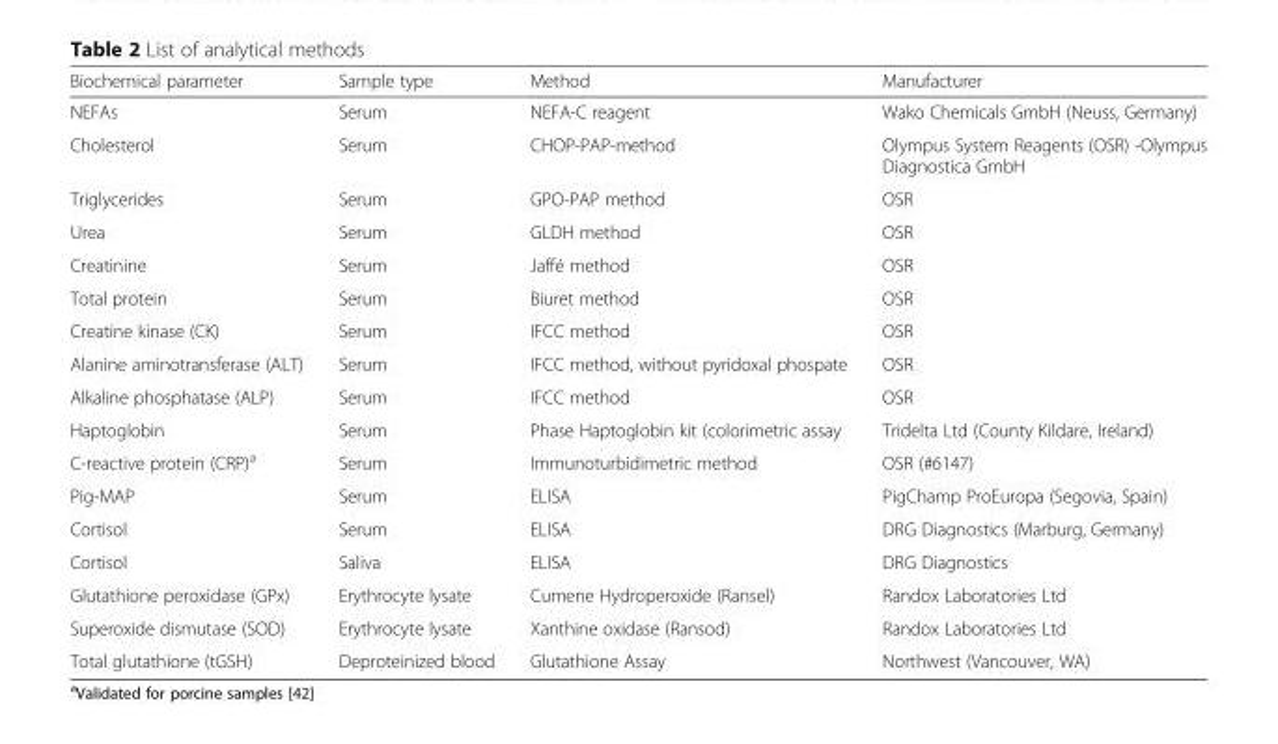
<table><thead><tr><td>Biochemical parameter</td><td>Sample type</td><td>Method</td><td>Manufacturer</td></tr></thead><tbody><tr><td>NEFAs</td><td>Serum</td><td>NEFA-C reagent</td><td>Wako Chemicals GmbH (Neuss, Germany)</td></tr><tr><td>Cholesterol</td><td>Serum</td><td>CHOP-PAP-method</td><td>Olympus System Reagents (OSR) -Olympus Diagnostica GmbH</td></tr><tr><td>Triglycerides</td><td>Serum</td><td>GPO-PAP method</td><td>OSR</td></tr><tr><td>Urea</td><td>Serum</td><td>GLDH method</td><td>OSR</td></tr><tr><td>Creatinine</td><td>Serum</td><td>Jaffé method</td><td>OSR</td></tr><tr><td>Total protein</td><td>Serum</td><td>Biuret method</td><td>OSR</td></tr><tr><td>Creatine kinase (CK)</td><td>Serum</td><td>IFCC method</td><td>OSR</td></tr><tr><td>Alanine aminotransferase (ALT)</td><td>Serum</td><td>IFCC method, without pyridoxal phospate</td><td>OSR</td></tr><tr><td>Alkaline phosphatase (ALP)</td><td>Serum</td><td>IFCC method</td><td>OSR</td></tr><tr><td>Haptoglobin</td><td>Serum</td><td>Phase Haptoglobin kit (colorimetric assay</td><td>Tridelta Ltd (County Kildare, Ireland)</td></tr><tr><td>C-reactive protein (CRP)<sup>a</sup></td><td>Serum</td><td>Immunoturbidimetric method</td><td>OSR (#6147)</td></tr><tr><td>Pig-MAP</td><td>Serum</td><td>ELISA</td><td>PigChamp ProEuropa (Segovia, Spain)</td></tr><tr><td>Cortisol</td><td>Serum</td><td>ELISA</td><td>DRG Diagnostics (Marburg, Germany)</td></tr><tr><td>Cortisol</td><td>Saliva</td><td>ELISA</td><td>DRG Diagnostics</td></tr><tr><td>Glutathione peroxidase (GPx)</td><td>Erythrocyte lysate</td><td>Cumene Hydroperoxide (Ransel)</td><td>Randox Laboratories Ltd</td></tr><tr><td>Superoxide dismutase (SOD)</td><td>Erythrocyte lysate</td><td>Xanthine oxidase (Ransod)</td><td>Randox Laboratories Ltd</td></tr><tr><td>Total glutathione (tGSH)</td><td>Deproteinized blood</td><td>Glutathione Assay</td><td>Northwest (Vancouver, WA)</td></tr></tbody></table>